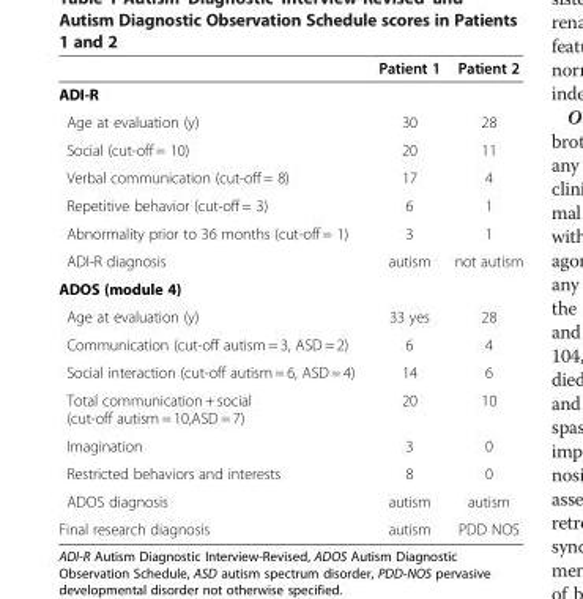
<table><thead><tr><td></td><td>Patient 1</td><td>Patient 2</td></tr></thead><tbody><tr><td colspan="3">ADI-R</td></tr><tr><td>Age at evaluation (y)</td><td>30</td><td>28</td></tr><tr><td>Social (cut-off = 10)</td><td>20</td><td>11</td></tr><tr><td>Verbal communication (cut-off = 8)</td><td>17</td><td>4</td></tr><tr><td>Repetitive behavior (cut-off = 3)</td><td>6</td><td>1</td></tr><tr><td>Abnormality prior to 36 months (cut-off = 1)</td><td>3</td><td>1</td></tr><tr><td>ADI-R diagnosis</td><td>autism</td><td>not autism</td></tr><tr><td colspan="3">ADOS (module 4)</td></tr><tr><td>Age at evaluation (y)</td><td>33 yes</td><td>28</td></tr><tr><td>Communication (cut-off autism = 3, ASD = 2)</td><td>6</td><td>4</td></tr><tr><td>Social interaction (cut-off autism = 6, ASD = 4)</td><td>14</td><td>6</td></tr><tr><td>Total communication + social (cut-off autism = 10,ASD = 7)</td><td>20</td><td>10</td></tr><tr><td>Imagination</td><td>3</td><td>0</td></tr><tr><td>Restricted behaviors and interests</td><td>8</td><td>0</td></tr><tr><td>ADOS diagnosis</td><td>autism</td><td>autism</td></tr><tr><td>Final research diagnosis</td><td>autism</td><td>PDD NOS</td></tr></tbody></table>